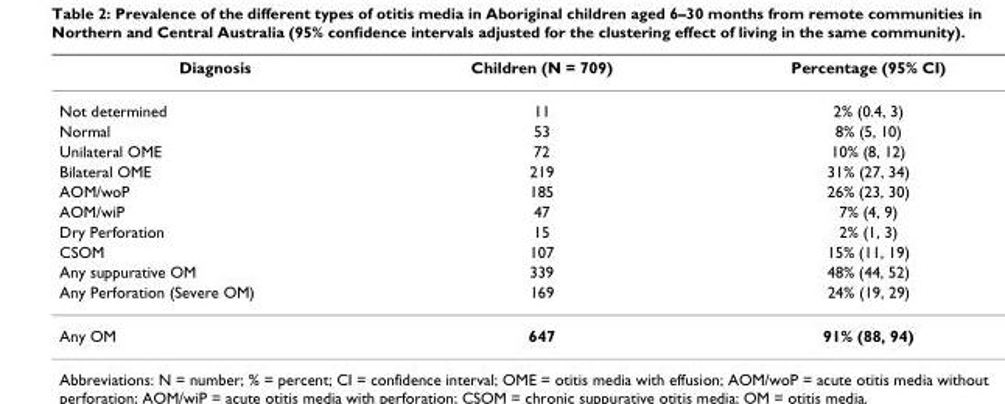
<table><thead><tr><td>Diagnosis</td><td>Children (N = 709)</td><td>Percentage (95% CI)</td></tr></thead><tbody><tr><td>Not determined</td><td>11</td><td>2% (0.4, 3)</td></tr><tr><td>Normal</td><td>53</td><td>8% (5, 10)</td></tr><tr><td>Unilateral OME</td><td>72</td><td>10% (8, 12)</td></tr><tr><td>Bilateral OME</td><td>219</td><td>31% (27, 34)</td></tr><tr><td>AOM/woP</td><td>185</td><td>26% (23, 30)</td></tr><tr><td>AOM/wiP</td><td>47</td><td>7% (4, 9)</td></tr><tr><td>Dry Perforation</td><td>15</td><td>2% (1, 3)</td></tr><tr><td>CSOM</td><td>107</td><td>15% (11, 19)</td></tr><tr><td>Any suppurative OM</td><td>339</td><td>48% (44, 52)</td></tr><tr><td>Any Perforation (Severe OM)</td><td>169</td><td>24% (19, 29)</td></tr><tr><td>Any OM</td><td>647</td><td>91% (88, 94)</td></tr></tbody></table>